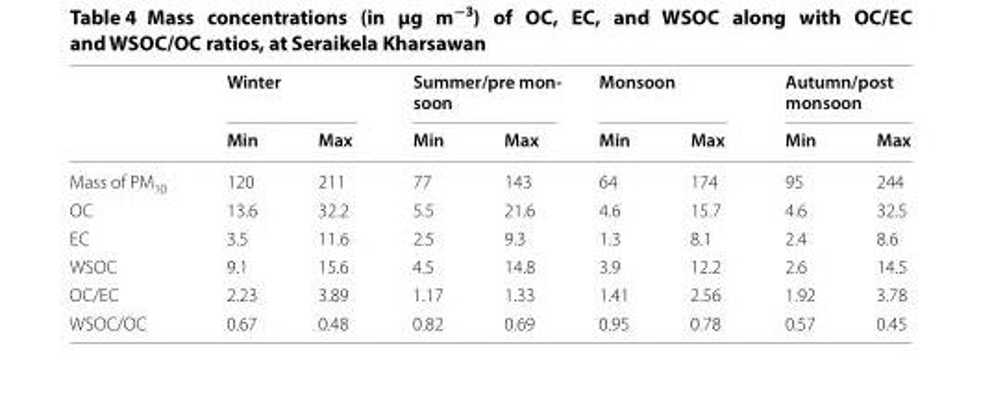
<table><thead><tr><td rowspan="2"></td><td colspan="2">Winter</td><td colspan="2">Summer/pre mon- soon</td><td colspan="2">Monsoon</td><td colspan="2">Autumn/post monsoon</td></tr><tr><td>Min</td><td>Max</td><td>Min</td><td>Max</td><td>Min</td><td>Max</td><td>Min</td><td>Max</td></tr></thead><tbody><tr><td>Mass of PM<sub>10</sub></td><td>120</td><td>211</td><td>77</td><td>143</td><td>64</td><td>174</td><td>95</td><td>244</td></tr><tr><td>OC</td><td>13.6</td><td>32.2</td><td>5.5</td><td>21.6</td><td>4.6</td><td>15.7</td><td>4.6</td><td>32.5</td></tr><tr><td>EC</td><td>3.5</td><td>11.6</td><td>2.5</td><td>9.3</td><td>1.3</td><td>8.1</td><td>2.4</td><td>8.6</td></tr><tr><td>WSOC</td><td>9.1</td><td>15.6</td><td>4.5</td><td>14.8</td><td>3.9</td><td>12.2</td><td>2.6</td><td>14.5</td></tr><tr><td>OC/EC</td><td>2.23</td><td>3.89</td><td>1.17</td><td>1.33</td><td>1.41</td><td>2.56</td><td>1.92</td><td>3.78</td></tr><tr><td>WSOC/OC</td><td>0.67</td><td>0.48</td><td>0.82</td><td>0.69</td><td>0.95</td><td>0.78</td><td>0.57</td><td>0.45</td></tr></tbody></table>